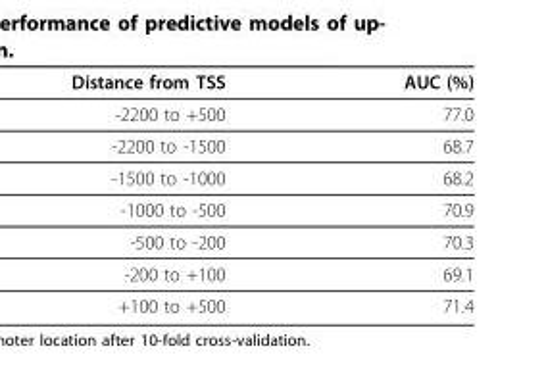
<table><thead><tr><td>Distance from TSS</td><td>AUC (%)</td></tr></thead><tbody><tr><td>-2200 to +500</td><td>77.0</td></tr><tr><td>-2200 to -1500</td><td>68.7</td></tr><tr><td>-1500 to -1000</td><td>68.2</td></tr><tr><td>-1000 to -500</td><td>70.9</td></tr><tr><td>-500 to -200</td><td>70.3</td></tr><tr><td>-200 to +100</td><td>69.1</td></tr><tr><td>+100 to +500</td><td>71.4</td></tr></tbody></table>